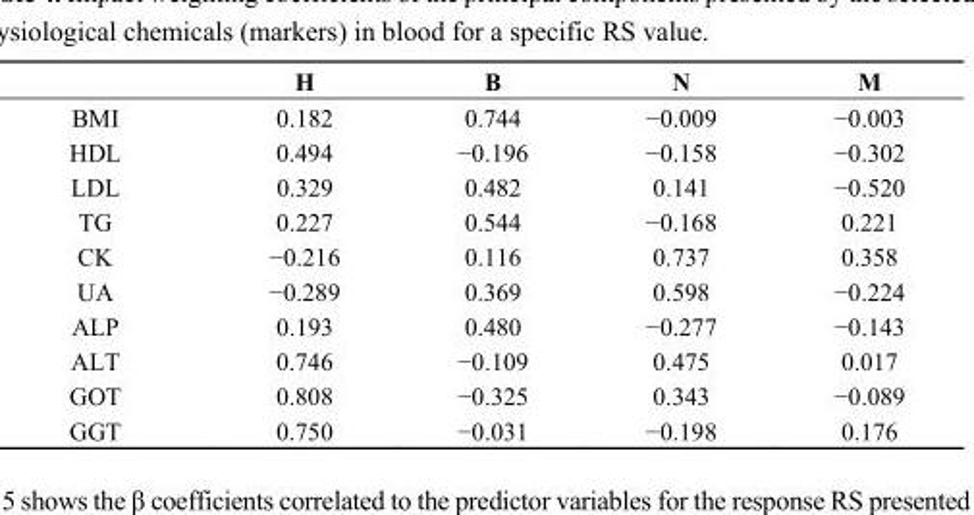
<table><thead><tr><td></td><td>H</td><td>B</td><td>N</td><td>M</td></tr></thead><tbody><tr><td>BMI</td><td>0.182</td><td>0.744</td><td>−0.009</td><td>−0.003</td></tr><tr><td>HDL</td><td>0.494</td><td>−0.196</td><td>−0.158</td><td>−0.302</td></tr><tr><td>LDL</td><td>0.329</td><td>0.482</td><td>0.141</td><td>−0.520</td></tr><tr><td>TG</td><td>0.227</td><td>0.544</td><td>−0.168</td><td>0.221</td></tr><tr><td>CK</td><td>−0.216</td><td>0.116</td><td>0.737</td><td>0.358</td></tr><tr><td>UA</td><td>−0.289</td><td>0.369</td><td>0.598</td><td>−0.224</td></tr><tr><td>ALP</td><td>0.193</td><td>0.480</td><td>−0.277</td><td>−0.143</td></tr><tr><td>ALT</td><td>0.746</td><td>−0.109</td><td>0.475</td><td>0.017</td></tr><tr><td>GOT</td><td>0.808</td><td>−0.325</td><td>0.343</td><td>−0.089</td></tr><tr><td>GGT</td><td>0.750</td><td>−0.031</td><td>−0.198</td><td>0.176</td></tr></tbody></table>